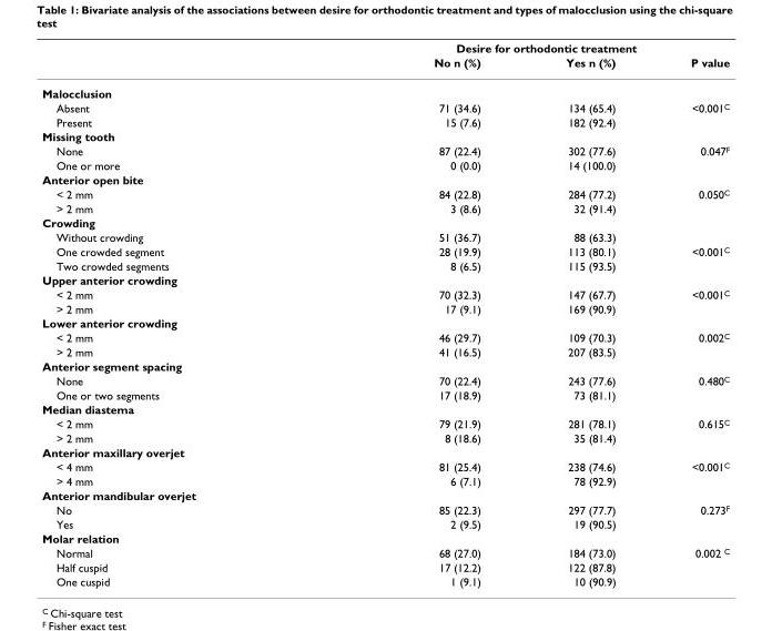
<table><thead><tr><td rowspan="2"></td><td colspan="3">Desire for orthodontic treatment</td></tr><tr><td>No n (%)</td><td>Yes n (%)</td><td>P value</td></tr></thead><tbody><tr><td colspan="4">Malocclusion</td></tr><tr><td>Absent</td><td>71 (34.6)</td><td>134 (65.4)</td><td>&lt;0.001<sup>C</sup></td></tr><tr><td>Present</td><td>15 (7.6)</td><td>182 (92.4)</td><td></td></tr><tr><td colspan="4">Missing tooth</td></tr><tr><td>None</td><td>87 (22.4)</td><td>302 (77.6)</td><td>0.047<sup>F</sup></td></tr><tr><td>One or more</td><td>0 (0.0)</td><td>14 (100.0)</td><td></td></tr><tr><td colspan="4">Anterior open bite</td></tr><tr><td>&lt; 2 mm</td><td>84 (22.8)</td><td>284 (77.2)</td><td>0.050<sup>C</sup></td></tr><tr><td>&gt; 2 mm</td><td>3 (8.6)</td><td>32 (91.4)</td><td></td></tr><tr><td colspan="4">Crowding</td></tr><tr><td>Without crowding</td><td>51 (36.7)</td><td>88 (63.3)</td><td></td></tr><tr><td>One crowded segment</td><td>28 (19.9)</td><td>113 (80.1)</td><td>&lt;0.001<sup>C</sup></td></tr><tr><td>Two crowded segments</td><td>8 (6.5)</td><td>115 (93.5)</td><td></td></tr><tr><td colspan="4">Upper anterior crowding</td></tr><tr><td>&lt; 2 mm</td><td>70 (32.3)</td><td>147 (67.7)</td><td>&lt;0.001<sup>C</sup></td></tr><tr><td>&gt; 2 mm</td><td>17 (9.1)</td><td>169 (90.9)</td><td></td></tr><tr><td colspan="4">Lower anterior crowding</td></tr><tr><td>&lt; 2 mm</td><td>46 (29.7)</td><td>109 (70.3)</td><td>0.002<sup>C</sup></td></tr><tr><td>&gt; 2 mm</td><td>41 (16.5)</td><td>207 (83.5)</td><td></td></tr><tr><td colspan="4">Anterior segment spacing</td></tr><tr><td>None</td><td>70 (22.4)</td><td>243 (77.6)</td><td>0.480<sup>C</sup></td></tr><tr><td>One or two segments</td><td>17 (18.9)</td><td>73 (81.1)</td><td></td></tr><tr><td colspan="4">Median diastema</td></tr><tr><td>&lt; 2 mm</td><td>79 (21.9)</td><td>281 (78.1)</td><td>0.615<sup>C</sup></td></tr><tr><td>&gt; 2 mm</td><td>8 (18.6)</td><td>35 (81.4)</td><td></td></tr><tr><td colspan="4">Anterior maxillary overjet</td></tr><tr><td>&lt; 4 mm</td><td>81 (25.4)</td><td>238 (74.6)</td><td>&lt;0.001<sup>C</sup></td></tr><tr><td>&gt; 4 mm</td><td>6 (7.1)</td><td>78 (92.9)</td><td></td></tr><tr><td colspan="4">Anterior mandibular overjet</td></tr><tr><td>No</td><td>85 (22.3)</td><td>297 (77.7)</td><td>0.273<sup>F</sup></td></tr><tr><td>Yes</td><td>2 (9.5)</td><td>19 (90.5)</td><td></td></tr><tr><td colspan="4">Molar relation</td></tr><tr><td>Normal</td><td>68 (27.0)</td><td>184 (73.0)</td><td>0.002 <sup>C</sup></td></tr><tr><td>Half cuspid</td><td>17 (12.2)</td><td>122 (87.8)</td><td></td></tr><tr><td>One cuspid</td><td>1 (9.1)</td><td>10 (90.9)</td><td></td></tr></tbody></table>